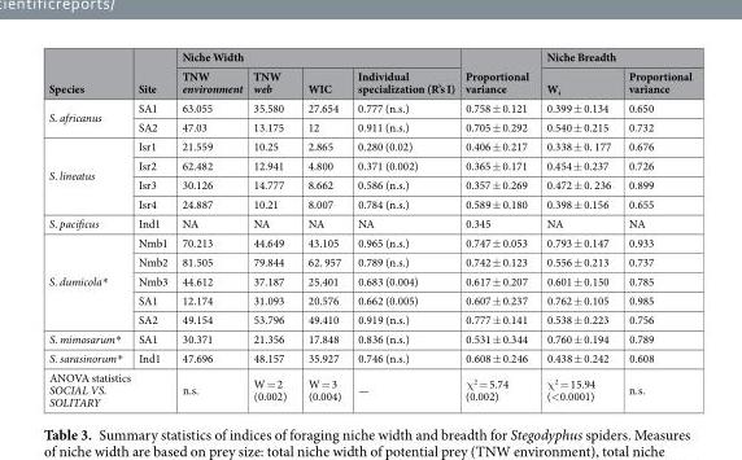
<table><thead><tr><td rowspan="2">Species</td><td rowspan="2">Site</td><td colspan="4">Niche Width</td><td rowspan="2">Proportional variance</td><td colspan="2">Niche Breadth</td></tr><tr><td>TNW environment</td><td>TNW web</td><td>WIC</td><td>Individual specialization (R’s I)</td><td>W<sub>i</sub></td><td>Proportional variance</td></tr></thead><tbody><tr><td rowspan="2">S. africanus</td><td>SA1</td><td>63.055</td><td>35.580</td><td>27.654</td><td>0.777 (n.s.)</td><td>0.758 ± 0.121</td><td>0.399 ± 0.134</td><td>0.650</td></tr><tr><td>SA2</td><td>47.03</td><td>13.175</td><td>12</td><td>0.911 (n.s.)</td><td>0.705 ± 0.292</td><td>0.540 ± 0.215</td><td>0.732</td></tr><tr><td rowspan="4">S. lineatus</td><td>Isr1</td><td>21.559</td><td>10.25</td><td>2.865</td><td>0.280 (0.02)</td><td>0.406 ± 0.217</td><td>0.338 ± 0. 177</td><td>0.676</td></tr><tr><td>Isr2</td><td>62.482</td><td>12.941</td><td>4.800</td><td>0.371 (0.002)</td><td>0.365 ± 0.171</td><td>0.454 ± 0.237</td><td>0.726</td></tr><tr><td>Isr3</td><td>30.126</td><td>14.777</td><td>8.662</td><td>0.586 (n.s.)</td><td>0.357 ± 0.269</td><td>0.472 ± 0. 236</td><td>0.899</td></tr><tr><td>Isr4</td><td>24.887</td><td>10.21</td><td>8.007</td><td>0.784 (n.s.)</td><td>0.589 ± 0.180</td><td>0.398 ± 0.156</td><td>0.655</td></tr><tr><td>S. pacificus</td><td>Ind1</td><td>NA</td><td>NA</td><td>NA</td><td>NA</td><td>0.345</td><td>NA</td><td>NA</td></tr><tr><td rowspan="5">S. dumicola*</td><td>Nmb1</td><td>70.213</td><td>44.649</td><td>43.105</td><td>0.965 (n.s.)</td><td>0.747 ± 0.053</td><td>0.793 ± 0.147</td><td>0.933</td></tr><tr><td>Nmb2</td><td>81.505</td><td>79.844</td><td>62. 957</td><td>0.789 (n.s.)</td><td>0.742 ± 0.123</td><td>0.556 ± 0.213</td><td>0.737</td></tr><tr><td>Nmb3</td><td>44.612</td><td>37.187</td><td>25.401</td><td>0.683 (0.004)</td><td>0.617 ± 0.207</td><td>0.601 ± 0.150</td><td>0.785</td></tr><tr><td>SA1</td><td>12.174</td><td>31.093</td><td>20.576</td><td>0.662 (0.005)</td><td>0.607 ± 0.237</td><td>0.762 ± 0.105</td><td>0.985</td></tr><tr><td>SA2</td><td>49.154</td><td>53.796</td><td>49.410</td><td>0.919 (n.s.)</td><td>0.777 ± 0.141</td><td>0.538 ± 0.223</td><td>0.756</td></tr><tr><td>S. mimosarum*</td><td>SA1</td><td>30.371</td><td>21.356</td><td>17.848</td><td>0.836 (n.s.)</td><td>0.531 ± 0.344</td><td>0.760 ± 0.194</td><td>0.789</td></tr><tr><td>S. sarasinorum*</td><td>Ind1</td><td>47.696</td><td>48.157</td><td>35.927</td><td>0.746 (n.s.)</td><td>0.608 ± 0.246</td><td>0.438 ± 0.242</td><td>0.608</td></tr><tr><td colspan="2">ANOVA statistics SOCIAL VS. SOLITARY</td><td>n.s.</td><td>W = 2 (0.002)</td><td>W = 3 (0.004)</td><td>—</td><td>χ<sup>2</sup> = 5.74 (0.002)</td><td>χ<sup>2</sup> = 15.94 (&lt;0.0001)</td><td>n.s.</td></tr></tbody></table>